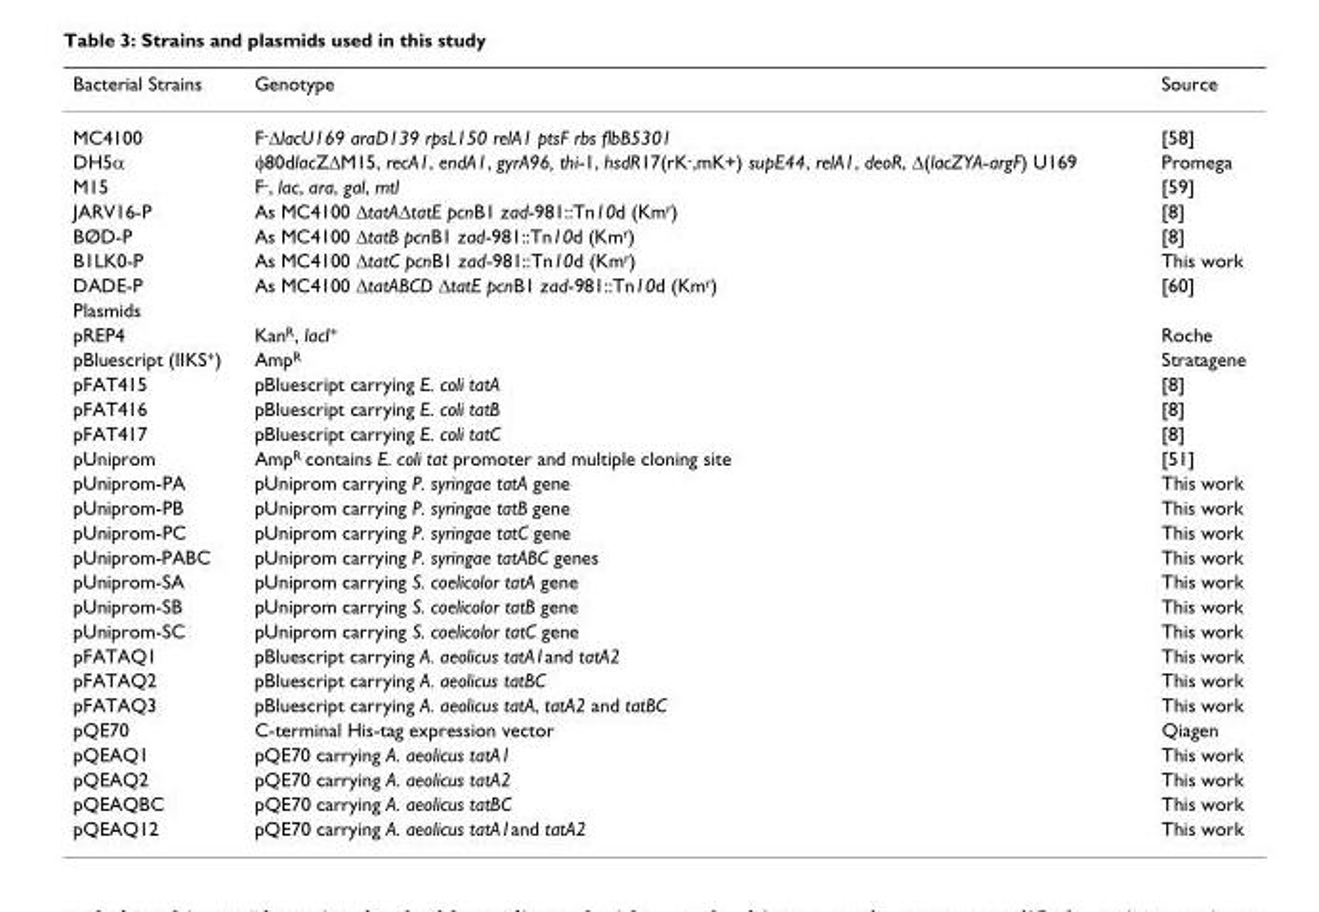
<table><thead><tr><td>Bacterial Strains</td><td>Genotype</td><td>Source</td></tr></thead><tbody><tr><td>MC4100</td><td>F-∆lacU169 araD139 rpsL150 relA1 ptsF rbs flbB5301</td><td>[58]</td></tr><tr><td>DH5α</td><td>φ80dlacZ∆M15, recA1, endA1, gyrA96, thi-1, hsdR17(rK-,mK+) supE44, relA1, deoR, ∆(lacZYA-argF) U169</td><td>Promega</td></tr><tr><td>M15</td><td>F-, lac, ara, gal, mtl</td><td>[59]</td></tr><tr><td>JARV16-P</td><td>As MC4100 ∆tatA∆tatE pcnB1 zad-981::Tn10d (Kmr)</td><td>[8]</td></tr><tr><td>BØD-P</td><td>As MC4100 ∆tatB pcnB1 zad-981::Tn10d (Kmr)</td><td>[8]</td></tr><tr><td>B1LK0-P</td><td>As MC4100 ∆tatC pcnB1 zad-981::Tn10d (Kmr)</td><td>This work</td></tr><tr><td>DADE-P</td><td>As MC4100 ∆tatABCD ∆tatE pcnB1 zad-981::Tn10d (Kmr)</td><td>[60]</td></tr><tr><td colspan="3">Plasmids</td></tr><tr><td>pREP4</td><td>KanR, lacI+</td><td>Roche</td></tr><tr><td>pBluescript (IIKS+)</td><td>AmpR</td><td>Stratagene</td></tr><tr><td>pFAT415</td><td>pBluescript carrying E. coli tatA</td><td>[8]</td></tr><tr><td>pFAT416</td><td>pBluescript carrying E. coli tatB</td><td>[8]</td></tr><tr><td>pFAT417</td><td>pBluescript carrying E. coli tatC</td><td>[8]</td></tr><tr><td>pUniprom</td><td>AmpR contains E. coli tat promoter and multiple cloning site</td><td>[51]</td></tr><tr><td>pUniprom-PA</td><td>pUniprom carrying P. syringae tatA gene</td><td>This work</td></tr><tr><td>pUniprom-PB</td><td>pUniprom carrying P. syringae tatB gene</td><td>This work</td></tr><tr><td>pUniprom-PC</td><td>pUniprom carrying P. syringae tatC gene</td><td>This work</td></tr><tr><td>pUniprom-PABC</td><td>pUniprom carrying P. syringae tatABC genes</td><td>This work</td></tr><tr><td>pUniprom-SA</td><td>pUniprom carrying S. coelicolor tatA gene</td><td>This work</td></tr><tr><td>pUniprom-SB</td><td>pUniprom carrying S. coelicolor tatB gene</td><td>This work</td></tr><tr><td>pUniprom-SC</td><td>pUniprom carrying S. coelicolor tatC gene</td><td>This work</td></tr><tr><td>pFATAQ1</td><td>pBluescript carrying A. aeolicus tatA1and tatA2</td><td>This work</td></tr><tr><td>pFATAQ2</td><td>pBluescript carrying A. aeolicus tatBC</td><td>This work</td></tr><tr><td>pFATAQ3</td><td>pBluescript carrying A. aeolicus tatA, tatA2 and tatBC</td><td>This work</td></tr><tr><td>pQE70</td><td>C-terminal His-tag expression vector</td><td>Qiagen</td></tr><tr><td>pQEAQ1</td><td>pQE70 carrying A. aeolicus tatA1</td><td>This work</td></tr><tr><td>pQEAQ2</td><td>pQE70 carrying A. aeolicus tatA2</td><td>This work</td></tr><tr><td>pQEAQBC</td><td>pQE70 carrying A. aeolicus tatBC</td><td>This work</td></tr><tr><td>pQEAQ12</td><td>pQE70 carrying A. aeolicus tatA1and tatA2</td><td>This work</td></tr></tbody></table>